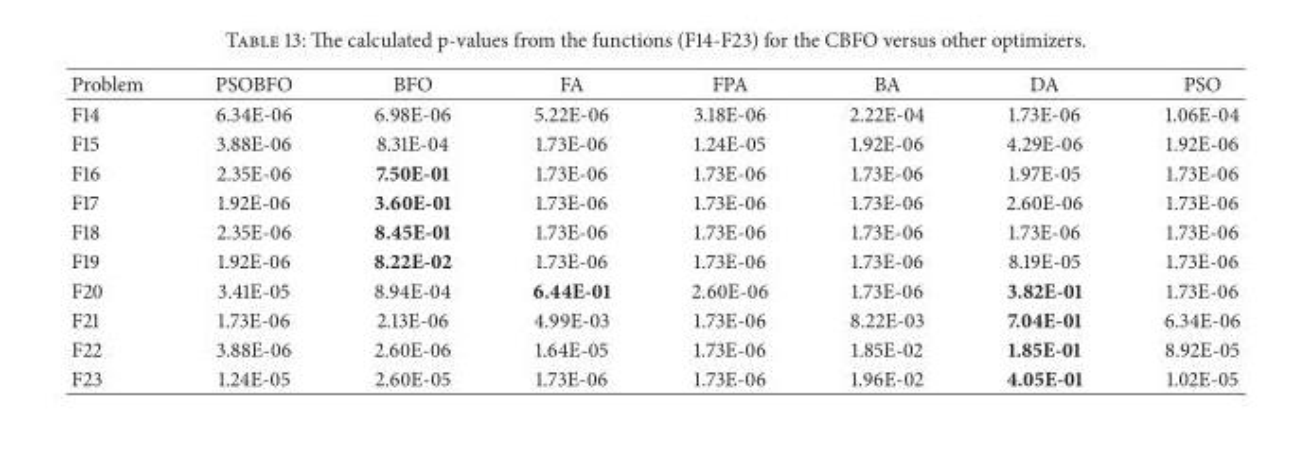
<table><thead><tr><td>Problem</td><td>PSOBFO</td><td>BFO</td><td>FA</td><td>FPA</td><td>BA</td><td>DA</td><td>PSO</td></tr></thead><tbody><tr><td>F14</td><td>6.34E-06</td><td>6.98E-06</td><td>5.22E-06</td><td>3.18E-06</td><td>2.22E-04</td><td>1.73E-06</td><td>1.06E-04</td></tr><tr><td>F15</td><td>3.88E-06</td><td>8.31E-04</td><td>1.73E-06</td><td>1.24E-05</td><td>1.92E-06</td><td>4.29E-06</td><td>1.92E-06</td></tr><tr><td>F16</td><td>2.35E-06</td><td>7.50E-01</td><td>1.73E-06</td><td>1.73E-06</td><td>1.73E-06</td><td>1.97E-05</td><td>1.73E-06</td></tr><tr><td>F17</td><td>1.92E-06</td><td>3.60E-01</td><td>1.73E-06</td><td>1.73E-06</td><td>1.73E-06</td><td>2.60E-06</td><td>1.73E-06</td></tr><tr><td>F18</td><td>2.35E-06</td><td>8.45E-01</td><td>1.73E-06</td><td>1.73E-06</td><td>1.73E-06</td><td>1.73E-06</td><td>1.73E-06</td></tr><tr><td>F19</td><td>1.92E-06</td><td>8.22E-02</td><td>1.73E-06</td><td>1.73E-06</td><td>1.73E-06</td><td>8.19E-05</td><td>1.73E-06</td></tr><tr><td>F20</td><td>3.41E-05</td><td>8.94E-04</td><td>6.44E-01</td><td>2.60E-06</td><td>1.73E-06</td><td>3.82E-01</td><td>1.73E-06</td></tr><tr><td>F21</td><td>1.73E-06</td><td>2.13E-06</td><td>4.99E-03</td><td>1.73E-06</td><td>8.22E-03</td><td>7.04E-01</td><td>6.34E-06</td></tr><tr><td>F22</td><td>3.88E-06</td><td>2.60E-06</td><td>1.64E-05</td><td>1.73E-06</td><td>1.85E-02</td><td>1.85E-01</td><td>8.92E-05</td></tr><tr><td>F23</td><td>1.24E-05</td><td>2.60E-05</td><td>1.73E-06</td><td>1.73E-06</td><td>1.96E-02</td><td>4.05E-01</td><td>1.02E-05</td></tr></tbody></table>